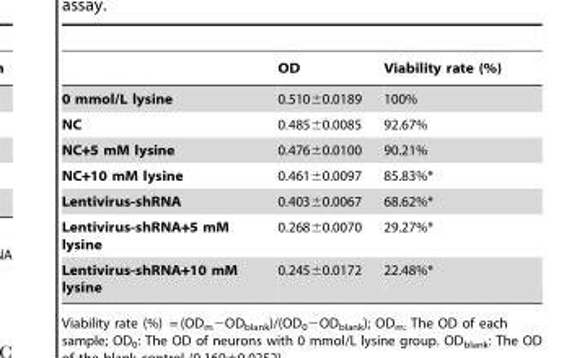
<table><thead><tr><td></td><td>OD</td><td>Viability rate (%)</td></tr></thead><tbody><tr><td>0 mmol/L lysine</td><td>0.510±0.0189</td><td>100%</td></tr><tr><td>NC</td><td>0.485±0.0085</td><td>92.67%</td></tr><tr><td>NC+5 mM lysine</td><td>0.476±0.0100</td><td>90.21%</td></tr><tr><td>NC+10 mM lysine</td><td>0.461±0.0097</td><td>85.83%*</td></tr><tr><td>Lentivirus-shRNA</td><td>0.403±0.0067</td><td>68.62%*</td></tr><tr><td>Lentivirus-shRNA+5 mM lysine</td><td>0.268±0.0070</td><td>29.27%*</td></tr><tr><td>Lentivirus-shRNA+10 mM lysine</td><td>0.245±0.0172</td><td>22.48%*</td></tr></tbody></table>